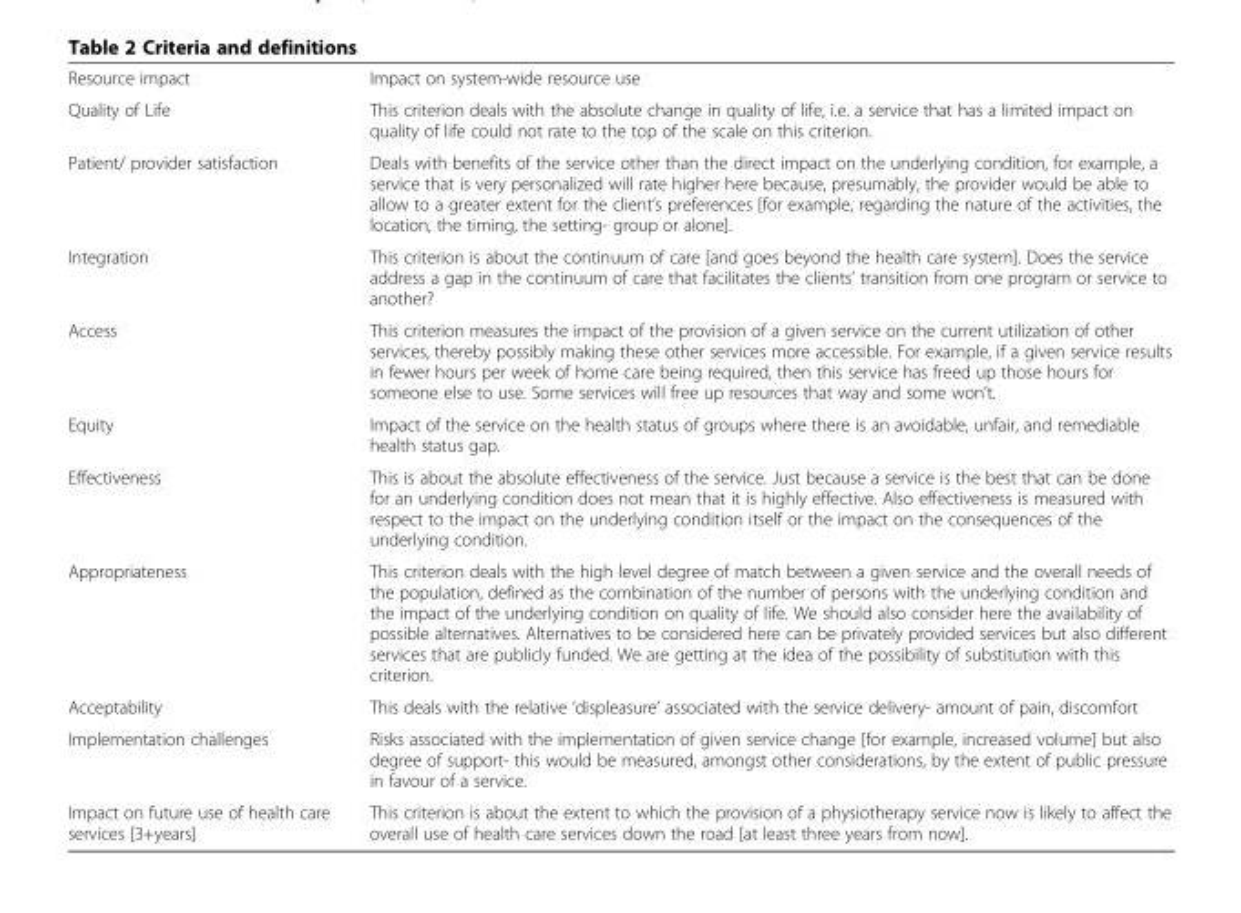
<table><tbody><tr><td>Resource impact</td><td>Impact on system-wide resource use</td></tr><tr><td>Quality of Life</td><td>This criterion deals with the absolute change in quality of life, i.e. a service that has a limited impact on quality of life could not rate to the top of the scale on this criterion.</td></tr><tr><td>Patient/ provider satisfaction</td><td>Deals with benefits of the service other than the direct impact on the underlying condition, for example, a service that is very personalized will rate higher here because, presumably, the provider would be able to allow to a greater extent for the client’s preferences [for example, regarding the nature of the activities, the location, the timing, the setting- group or alone].</td></tr><tr><td>Integration</td><td>This criterion is about the continuum of care [and goes beyond the health care system]. Does the service address a gap in the continuum of care that facilitates the clients’ transition from one program or service to another?</td></tr><tr><td>Access</td><td>This criterion measures the impact of the provision of a given service on the current utilization of other services, thereby possibly making these other services more accessible. For example, if a given service results in fewer hours per week of home care being required, then this service has freed up those hours for someone else to use. Some services will free up resources that way and some won’t.</td></tr><tr><td>Equity</td><td>Impact of the service on the health status of groups where there is an avoidable, unfair, and remediable health status gap.</td></tr><tr><td>Effectiveness</td><td>This is about the absolute effectiveness of the service. Just because a service is the best that can be done for an underlying condition does not mean that it is highly effective. Also effectiveness is measured with respect to the impact on the underlying condition itself or the impact on the consequences of the underlying condition.</td></tr><tr><td>Appropriateness</td><td>This criterion deals with the high level degree of match between a given service and the overall needs of the population, defined as the combination of the number of persons with the underlying condition and the impact of the underlying condition on quality of life. We should also consider here the availability of possible alternatives. Alternatives to be considered here can be privately provided services but also different services that are publicly funded. We are getting at the idea of the possibility of substitution with this criterion.</td></tr><tr><td>Acceptability</td><td>This deals with the relative ‘displeasure’ associated with the service delivery- amount of pain, discomfort</td></tr><tr><td>Implementation challenges</td><td>Risks associated with the implementation of given service change [for example, increased volume] but also degree of support- this would be measured, amongst other considerations, by the extent of public pressure in favour of a service.</td></tr><tr><td>Impact on future use of health care services [3+years]</td><td>This criterion is about the extent to which the provision of a physiotherapy service now is likely to affect the overall use of health care services down the road [at least three years from now].</td></tr></tbody></table>